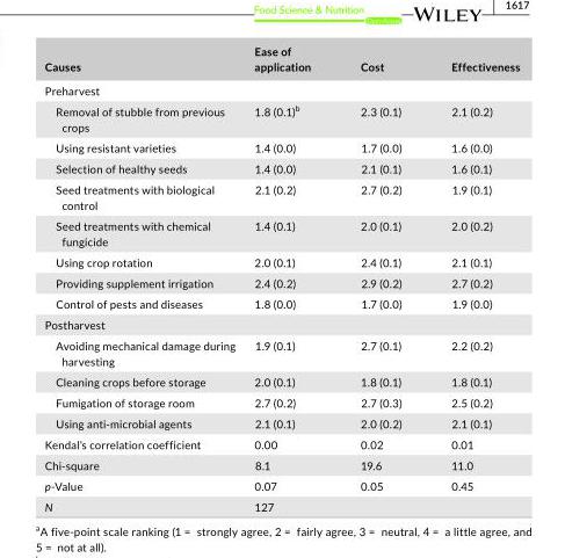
<table><thead><tr><td>Causes</td><td>Ease of application</td><td>Cost</td><td>Effectiveness</td></tr></thead><tbody><tr><td colspan="4">Preharvest</td></tr><tr><td>Removal of stubble from previous crops</td><td>1.8 (0.1)<sup>b</sup></td><td>2.3 (0.1)</td><td>2.1 (0.2)</td></tr><tr><td>Using resistant varieties</td><td>1.4 (0.0)</td><td>1.7 (0.0)</td><td>1.6 (0.0)</td></tr><tr><td>Selection of healthy seeds</td><td>1.4 (0.0)</td><td>2.1 (0.1)</td><td>1.6 (0.1)</td></tr><tr><td>Seed treatments with biological control</td><td>2.1 (0.2)</td><td>2.7 (0.2)</td><td>1.9 (0.1)</td></tr><tr><td>Seed treatments with chemical fungicide</td><td>1.4 (0.1)</td><td>2.0 (0.1)</td><td>2.0 (0.2)</td></tr><tr><td>Using crop rotation</td><td>2.0 (0.1)</td><td>2.4 (0.1)</td><td>2.1 (0.1)</td></tr><tr><td>Providing supplement irrigation</td><td>2.4 (0.2)</td><td>2.9 (0.2)</td><td>2.7 (0.2)</td></tr><tr><td>Control of pests and diseases</td><td>1.8 (0.0)</td><td>1.7 (0.0)</td><td>1.9 (0.0)</td></tr><tr><td colspan="4">Postharvest</td></tr><tr><td>Avoiding mechanical damage during harvesting</td><td>1.9 (0.1)</td><td>2.7 (0.1)</td><td>2.2 (0.2)</td></tr><tr><td>Cleaning crops before storage</td><td>2.0 (0.1)</td><td>1.8 (0.1)</td><td>1.8 (0.1)</td></tr><tr><td>Fumigation of storage room</td><td>2.7 (0.2)</td><td>2.7 (0.3)</td><td>2.5 (0.2)</td></tr><tr><td>Using anti- microbial agents</td><td>2.1 (0.1)</td><td>2.0 (0.2)</td><td>2.1 (0.1)</td></tr><tr><td>Kendal’s correlation coefficient</td><td>0.00</td><td>0.02</td><td>0.01</td></tr><tr><td>Chi- square</td><td>8.1</td><td>19.6</td><td>11.0</td></tr><tr><td>p- Value</td><td>0.07</td><td>0.05</td><td>0.45</td></tr><tr><td>N</td><td colspan="3">127</td></tr></tbody></table>